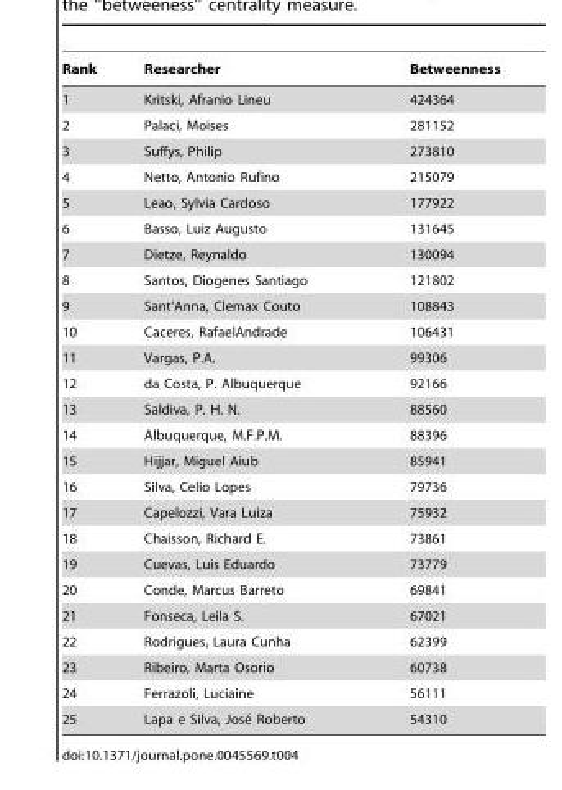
<table><thead><tr><td>Rank</td><td>Researcher</td><td>Betweenness</td></tr></thead><tbody><tr><td>1</td><td>Kritski, Afranio Lineu</td><td>424364</td></tr><tr><td>2</td><td>Palaci, Moises</td><td>281152</td></tr><tr><td>3</td><td>Suffys, Philip</td><td>273810</td></tr><tr><td>4</td><td>Netto, Antonio Rufino</td><td>215079</td></tr><tr><td>5</td><td>Leao, Sylvia Cardoso</td><td>177922</td></tr><tr><td>6</td><td>Basso, Luiz Augusto</td><td>131645</td></tr><tr><td>7</td><td>Dietze, Reynaldo</td><td>130094</td></tr><tr><td>8</td><td>Santos, Diogenes Santiago</td><td>121802</td></tr><tr><td>9</td><td>Sant’Anna, Clemax Couto</td><td>108843</td></tr><tr><td>10</td><td>Caceres, RafaelAndrade</td><td>106431</td></tr><tr><td>11</td><td>Vargas, P.A.</td><td>99306</td></tr><tr><td>12</td><td>da Costa, P. Albuquerque</td><td>92166</td></tr><tr><td>13</td><td>Saldiva, P. H. N.</td><td>88560</td></tr><tr><td>14</td><td>Albuquerque, M.F.P.M.</td><td>88396</td></tr><tr><td>15</td><td>Hijjar, Miguel Aiub</td><td>85941</td></tr><tr><td>16</td><td>Silva, Celio Lopes</td><td>79736</td></tr><tr><td>17</td><td>Capelozzi, Vara Luiza</td><td>75932</td></tr><tr><td>18</td><td>Chaisson, Richard E.</td><td>73861</td></tr><tr><td>19</td><td>Cuevas, Luis Eduardo</td><td>73779</td></tr><tr><td>20</td><td>Conde, Marcus Barreto</td><td>69841</td></tr><tr><td>21</td><td>Fonseca, Leila S.</td><td>67021</td></tr><tr><td>22</td><td>Rodrigues, Laura Cunha</td><td>62399</td></tr><tr><td>23</td><td>Ribeiro, Marta Osorio</td><td>60738</td></tr><tr><td>24</td><td>Ferrazoli, Luciaine</td><td>56111</td></tr><tr><td>25</td><td>Lapa e Silva, Jose´ Roberto</td><td>54310</td></tr></tbody></table>